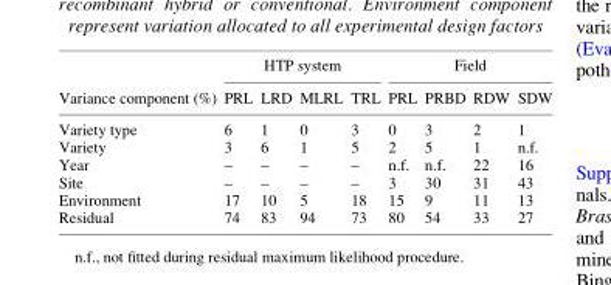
<table><thead><tr><td rowspan="2">Variance component (%)</td><td colspan="4">HTP system</td><td colspan="4">Field</td></tr><tr><td>PRL</td><td>LRD</td><td>MLRL</td><td>TRL</td><td>PRL</td><td>PRBD</td><td>RDW</td><td>SDW</td></tr></thead><tbody><tr><td>Variety type</td><td>6</td><td>1</td><td>0</td><td>3</td><td>0</td><td>3</td><td>2</td><td>1</td></tr><tr><td>Variety</td><td>3</td><td>6</td><td>1</td><td>5</td><td>2</td><td>5</td><td>1</td><td>n.f.</td></tr><tr><td>Year</td><td>–</td><td>–</td><td>–</td><td>–</td><td>n.f.</td><td>n.f.</td><td>22</td><td>16</td></tr><tr><td>Site</td><td>–</td><td>–</td><td>–</td><td>–</td><td>3</td><td>30</td><td>31</td><td>43</td></tr><tr><td>Environment</td><td>17</td><td>10</td><td>5</td><td>18</td><td>15</td><td>9</td><td>11</td><td>13</td></tr><tr><td>Residual</td><td>74</td><td>83</td><td>94</td><td>73</td><td>80</td><td>54</td><td>33</td><td>27</td></tr></tbody></table>